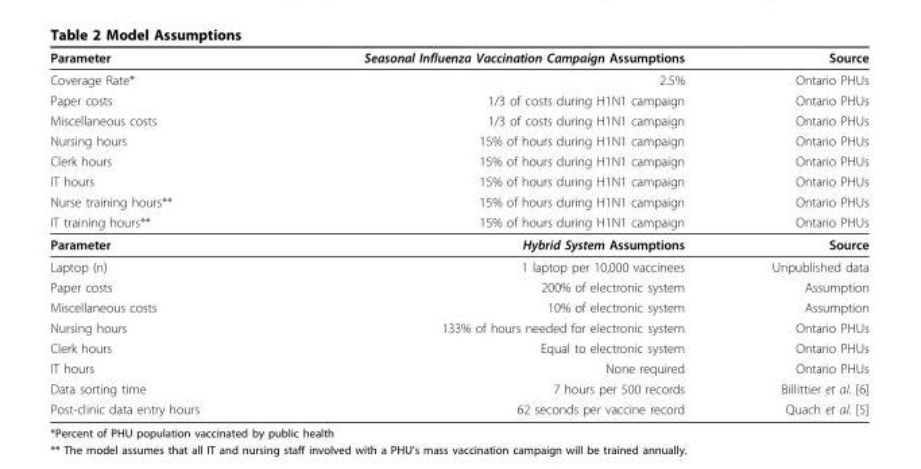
<table><thead><tr><td>Parameter</td><td>Seasonal Influenza Vaccination Campaign Assumptions</td><td>Source</td></tr></thead><tbody><tr><td>Coverage Rate*</td><td>2.5%</td><td>Ontario PHUs</td></tr><tr><td>Paper costs</td><td>1/3 of costs during H1N1 campaign</td><td>Ontario PHUs</td></tr><tr><td>Miscellaneous costs</td><td>1/3 of costs during H1N1 campaign</td><td>Ontario PHUs</td></tr><tr><td>Nursing hours</td><td>15% of hours during H1N1 campaign</td><td>Ontario PHUs</td></tr><tr><td>Clerk hours</td><td>15% of hours during H1N1 campaign</td><td>Ontario PHUs</td></tr><tr><td>IT hours</td><td>15% of hours during H1N1 campaign</td><td>Ontario PHUs</td></tr><tr><td>Nurse training hours**</td><td>15% of hours during H1N1 campaign</td><td>Ontario PHUs</td></tr><tr><td>IT training hours**</td><td>15% of hours during H1N1 campaign</td><td>Ontario PHUs</td></tr><tr><td>Parameter</td><td>Hybrid System Assumptions</td><td>Source</td></tr><tr><td>Laptop (n)</td><td>1 laptop per 10,000 vaccinees</td><td>Unpublished data</td></tr><tr><td>Paper costs</td><td>200% of electronic system</td><td>Assumption</td></tr><tr><td>Miscellaneous costs</td><td>10% of electronic system</td><td>Assumption</td></tr><tr><td>Nursing hours</td><td>133% of hours needed for electronic system</td><td>Ontario PHUs</td></tr><tr><td>Clerk hours</td><td>Equal to electronic system</td><td>Ontario PHUs</td></tr><tr><td>IT hours</td><td>None required</td><td>Ontario PHUs</td></tr><tr><td>Data sorting time</td><td>7 hours per 500 records</td><td>Billittier et al. [6]</td></tr><tr><td>Post-clinic data entry hours</td><td>62 seconds per vaccine record</td><td>Quach et al. [5]</td></tr></tbody></table>